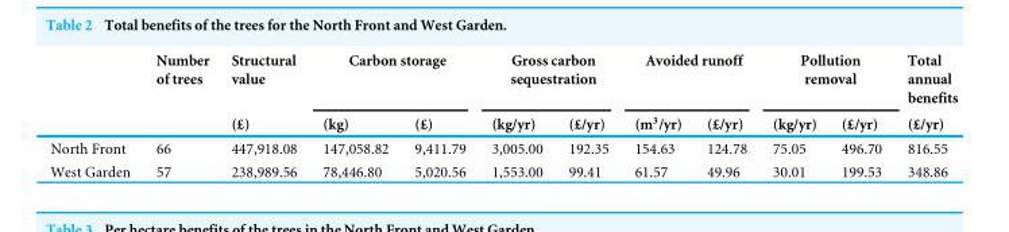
<table><thead><tr><td rowspan="2"></td><td rowspan="2">Number of trees</td><td rowspan="2">Structural value (£)</td><td colspan="2">Carbon storage</td><td colspan="2">Gross carbon sequestration</td><td colspan="2">Avoided runoff</td><td colspan="2">Pollution removal</td><td rowspan="2">Total annual benefits (£/yr)</td></tr><tr><td>(kg)</td><td>(£)</td><td>(kg/yr)</td><td>(£/yr)</td><td>(m<sup>3</sup>/yr)</td><td>(£/yr)</td><td>(kg/yr)</td><td>(£/yr)</td></tr></thead><tbody><tr><td>North Front</td><td>66</td><td>447,918.08</td><td>147,058.82</td><td>9,411.79</td><td>3,005.00</td><td>192.35</td><td>154.63</td><td>124.78</td><td>75.05</td><td>496.70</td><td>816.55</td></tr><tr><td>West Garden</td><td>57</td><td>238,989.56</td><td>78,446.80</td><td>5,020.56</td><td>1,553.00</td><td>99.41</td><td>61.57</td><td>49.96</td><td>30.01</td><td>199.53</td><td>348.86</td></tr></tbody></table>